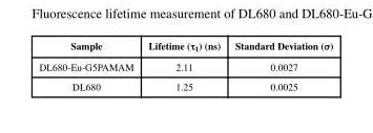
<table><thead><tr><td>Sample</td><td>Lifetime (τ<sub>1</sub>) (ns)</td><td>Standard Deviation (σ)</td></tr></thead><tbody><tr><td>DL680-Eu-G5PAMAM</td><td>2.11</td><td>0.0027</td></tr><tr><td>DL680</td><td>1.25</td><td>0.0025</td></tr></tbody></table>